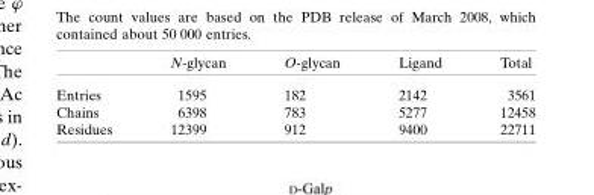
<table><thead><tr><td></td><td>N-glycan</td><td>O-glycan</td><td>Ligand</td><td>Total</td></tr></thead><tbody><tr><td>Entries</td><td>1595</td><td>182</td><td>2142</td><td>3561</td></tr><tr><td>Chains</td><td>6398</td><td>783</td><td>5277</td><td>12458</td></tr><tr><td>Residues</td><td>12399</td><td>912</td><td>9400</td><td>22711</td></tr></tbody></table>